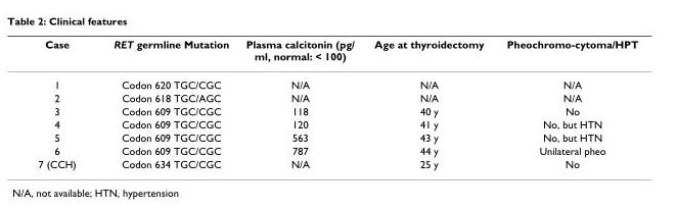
<table><thead><tr><td>Case</td><td>RET germline Mutation</td><td>Plasma calcitonin (pg/ ml, normal: &lt; 100)</td><td>Age at thyroidectomy</td><td>Pheochromo-cytoma/HPT</td></tr></thead><tbody><tr><td>1</td><td>Codon 620 TGC/CGC</td><td>N/A</td><td>N/A</td><td>N/A</td></tr><tr><td>2</td><td>Codon 618 TGC/AGC</td><td>N/A</td><td>N/A</td><td>N/A</td></tr><tr><td>3</td><td>Codon 609 TGC/CGC</td><td>118</td><td>40 y</td><td>No</td></tr><tr><td>4</td><td>Codon 609 TGC/CGC</td><td>120</td><td>41 y</td><td>No, but HTN</td></tr><tr><td>5</td><td>Codon 609 TGC/CGC</td><td>563</td><td>43 y</td><td>No, but HTN</td></tr><tr><td>6</td><td>Codon 609 TGC/CGC</td><td>787</td><td>44 y</td><td>Unilateral pheo</td></tr><tr><td>7 (CCH)</td><td>Codon 634 TGC/CGC</td><td>N/A</td><td>25 y</td><td>No</td></tr></tbody></table>